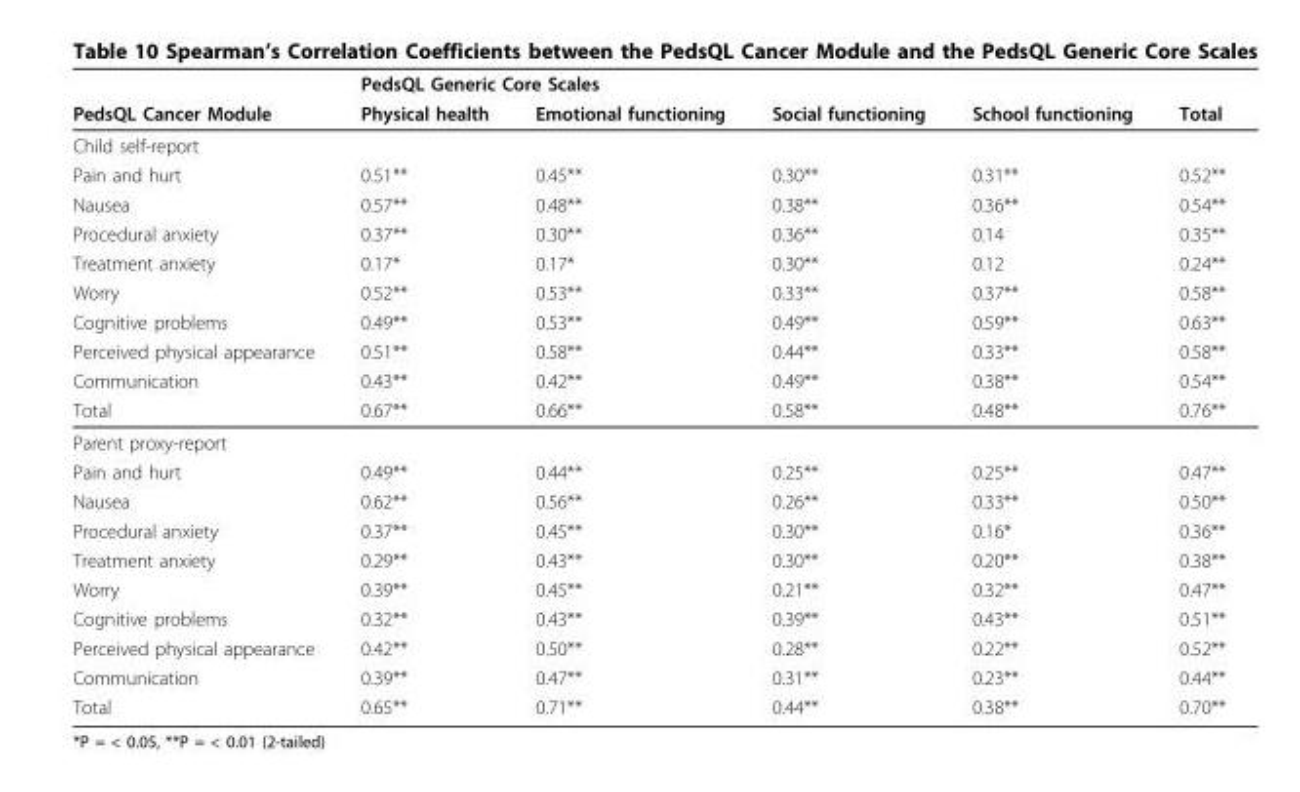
<table><thead><tr><td rowspan="2">PedsQL Cancer Module</td><td colspan="5">PedsQL Generic Core Scales</td></tr><tr><td>Physical health</td><td>Emotional functioning</td><td>Social functioning</td><td>School functioning</td><td>Total</td></tr></thead><tbody><tr><td colspan="6">Child self-report</td></tr><tr><td>Pain and hurt</td><td>0.51**</td><td>0.45**</td><td>0.30**</td><td>0.31**</td><td>0.52**</td></tr><tr><td>Nausea</td><td>0.57**</td><td>0.48**</td><td>0.38**</td><td>0.36**</td><td>0.54**</td></tr><tr><td>Procedural anxiety</td><td>0.37**</td><td>0.30**</td><td>0.36**</td><td>0.14</td><td>0.35**</td></tr><tr><td>Treatment anxiety</td><td>0.17*</td><td>0.17*</td><td>0.30**</td><td>0.12</td><td>0.24**</td></tr><tr><td>Worry</td><td>0.52**</td><td>0.53**</td><td>0.33**</td><td>0.37**</td><td>0.58**</td></tr><tr><td>Cognitive problems</td><td>0.49**</td><td>0.53**</td><td>0.49**</td><td>0.59**</td><td>0.63**</td></tr><tr><td>Perceived physical appearance</td><td>0.51**</td><td>0.58**</td><td>0.44**</td><td>0.33**</td><td>0.58**</td></tr><tr><td>Communication</td><td>0.43**</td><td>0.42**</td><td>0.49**</td><td>0.38**</td><td>0.54**</td></tr><tr><td>Total</td><td>0.67**</td><td>0.66**</td><td>0.58**</td><td>0.48**</td><td>0.76**</td></tr><tr><td colspan="6">Parent proxy-report</td></tr><tr><td>Pain and hurt</td><td>0.49**</td><td>0.44**</td><td>0.25**</td><td>0.25**</td><td>0.47**</td></tr><tr><td>Nausea</td><td>0.62**</td><td>0.56**</td><td>0.26**</td><td>0.33**</td><td>0.50**</td></tr><tr><td>Procedural anxiety</td><td>0.37**</td><td>0.45**</td><td>0.30**</td><td>0.16*</td><td>0.36**</td></tr><tr><td>Treatment anxiety</td><td>0.29**</td><td>0.43**</td><td>0.30**</td><td>0.20**</td><td>0.38**</td></tr><tr><td>Worry</td><td>0.39**</td><td>0.45**</td><td>0.21**</td><td>0.32**</td><td>0.47**</td></tr><tr><td>Cognitive problems</td><td>0.32**</td><td>0.43**</td><td>0.39**</td><td>0.43**</td><td>0.51**</td></tr><tr><td>Perceived physical appearance</td><td>0.42**</td><td>0.50**</td><td>0.28**</td><td>0.22**</td><td>0.52**</td></tr><tr><td>Communication</td><td>0.39**</td><td>0.47**</td><td>0.31**</td><td>0.23**</td><td>0.44**</td></tr><tr><td>Total</td><td>0.65**</td><td>0.71**</td><td>0.44**</td><td>0.38**</td><td>0.70**</td></tr></tbody></table>